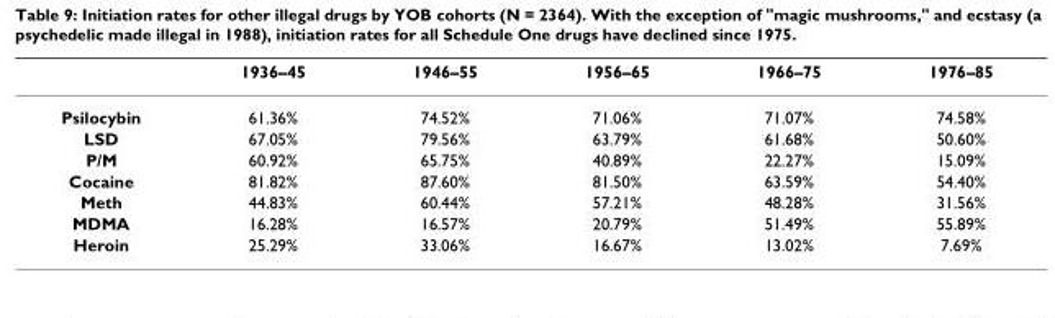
<table><thead><tr><td></td><td>1936–45</td><td>1946–55</td><td>1956–65</td><td>1966–75</td><td>1976–85</td></tr></thead><tbody><tr><td>Psilocybin</td><td>61.36%</td><td>74.52%</td><td>71.06%</td><td>71.07%</td><td>74.58%</td></tr><tr><td>LSD</td><td>67.05%</td><td>79.56%</td><td>63.79%</td><td>61.68%</td><td>50.60%</td></tr><tr><td>P/M</td><td>60.92%</td><td>65.75%</td><td>40.89%</td><td>22.27%</td><td>15.09%</td></tr><tr><td>Cocaine</td><td>81.82%</td><td>87.60%</td><td>81.50%</td><td>63.59%</td><td>54.40%</td></tr><tr><td>Meth</td><td>44.83%</td><td>60.44%</td><td>57.21%</td><td>48.28%</td><td>31.56%</td></tr><tr><td>MDMA</td><td>16.28%</td><td>16.57%</td><td>20.79%</td><td>51.49%</td><td>55.89%</td></tr><tr><td>Heroin</td><td>25.29%</td><td>33.06%</td><td>16.67%</td><td>13.02%</td><td>7.69%</td></tr></tbody></table>